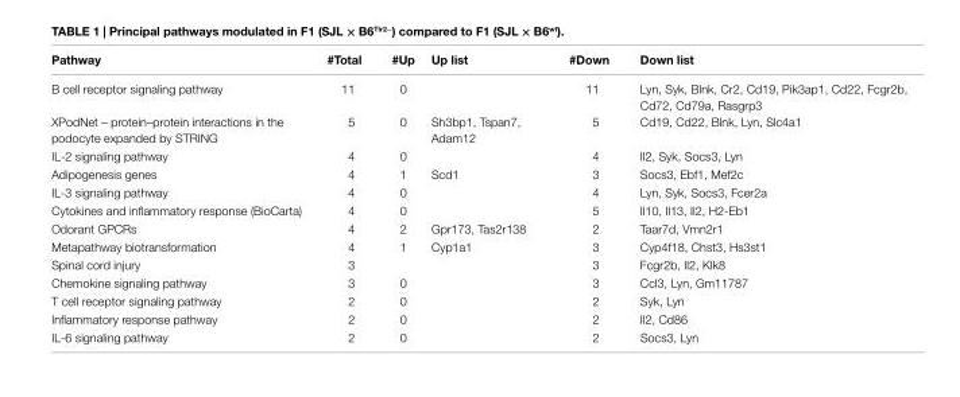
<table><thead><tr><td>Pathway</td><td>#Total</td><td>#Up</td><td>Up list</td><td>#Down</td><td>Down list</td></tr></thead><tbody><tr><td>B cell receptor signaling pathway</td><td>11</td><td>0</td><td></td><td>11</td><td>Lyn, Syk, Blnk, Cr2, Cd19, Pik3ap1, Cd22, Fcgr2b, Cd72, Cd79a, Rasgrp3</td></tr><tr><td>XPodNet – protein–protein interactions in the podocyte expanded by STRING</td><td>5</td><td>0</td><td>Sh3bp1, Tspan7, Adam12</td><td>5</td><td>Cd19, Cd22, Blnk, Lyn, Slc4a1</td></tr><tr><td>IL-2 signaling pathway</td><td>4</td><td>0</td><td></td><td>4</td><td>Il2, Syk, Socs3, Lyn</td></tr><tr><td>Adipogenesis genes</td><td>4</td><td>1</td><td>Scd1</td><td>3</td><td>Socs3, Ebf1, Mef2c</td></tr><tr><td>IL-3 signaling pathway</td><td>4</td><td>0</td><td></td><td>4</td><td>Lyn, Syk, Socs3, Fcer2a</td></tr><tr><td>Cytokines and inflammatory response (BioCarta)</td><td>4</td><td>0</td><td></td><td>5</td><td>Il10, Il13, Il2, H2-Eb1</td></tr><tr><td>Odorant GPCRs</td><td>4</td><td>2</td><td>Gpr173, Tas2r138</td><td>2</td><td>Taar7d, Vmn2r1</td></tr><tr><td>Metapathway biotransformation</td><td>4</td><td>1</td><td>Cyp1a1</td><td>3</td><td>Cyp4f18, Chst3, Hs3st1</td></tr><tr><td>Spinal cord injury</td><td>3</td><td></td><td></td><td>3</td><td>Fcgr2b, Il2, Klk8</td></tr><tr><td>Chemokine signaling pathway</td><td>3</td><td>0</td><td></td><td>3</td><td>Ccl3, Lyn, Gm11787</td></tr><tr><td>T cell receptor signaling pathway</td><td>2</td><td>0</td><td></td><td>2</td><td>Syk, Lyn</td></tr><tr><td>Inflammatory response pathway</td><td>2</td><td>0</td><td></td><td>2</td><td>Il2, Cd86</td></tr><tr><td>IL-6 signaling pathway</td><td>2</td><td>0</td><td></td><td>2</td><td>Socs3, Lyn</td></tr></tbody></table>